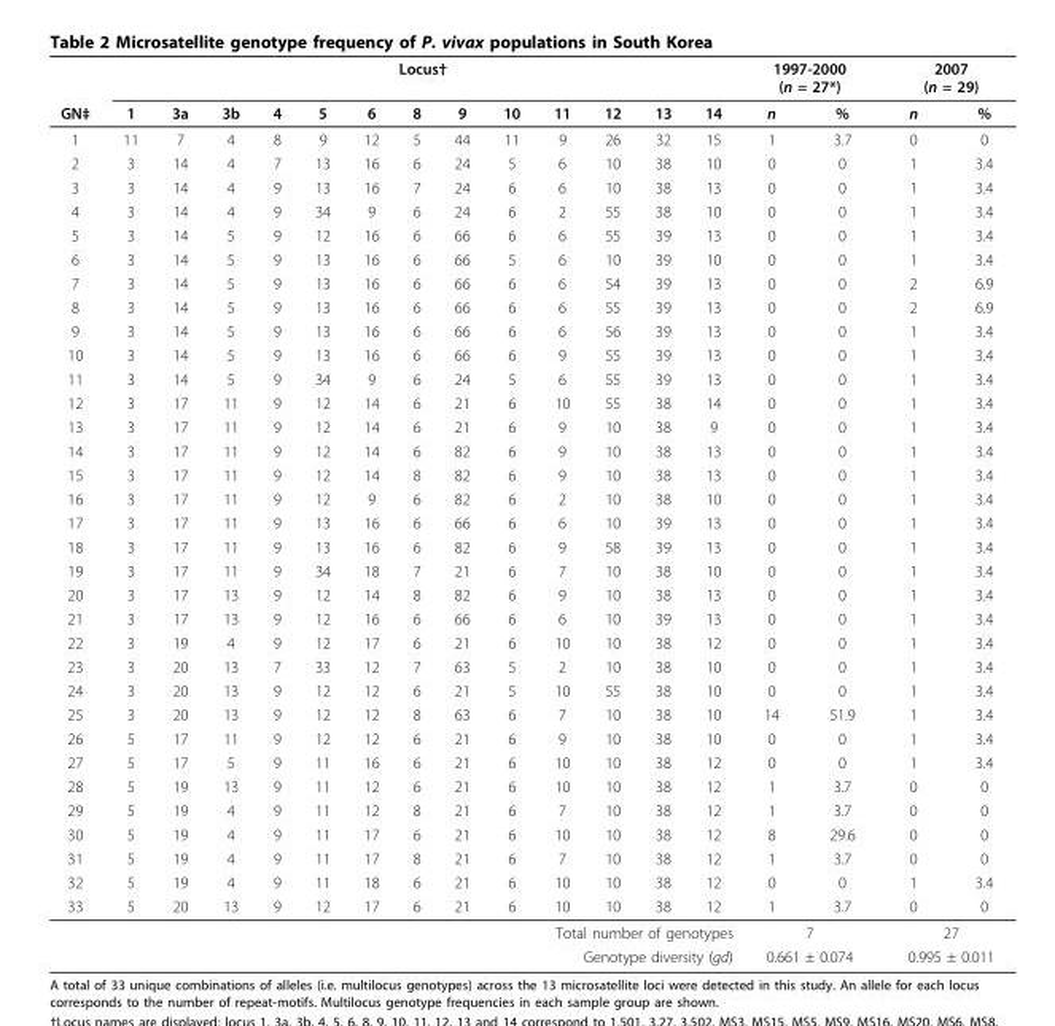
<table><thead><tr><td rowspan="2">GN‡</td><td colspan="13">Locus†</td><td colspan="2">1997-2000 (n = 27*)</td><td colspan="2">2007 (n = 29)</td></tr><tr><td>1</td><td>3a</td><td>3b</td><td>4</td><td>5</td><td>6</td><td>8</td><td>9</td><td>10</td><td>11</td><td>12</td><td>13</td><td>14</td><td>n</td><td>%</td><td>n</td><td>%</td></tr></thead><tbody><tr><td>1</td><td>11</td><td>7</td><td>4</td><td>8</td><td>9</td><td>12</td><td>5</td><td>44</td><td>11</td><td>9</td><td>26</td><td>32</td><td>15</td><td>1</td><td>3.7</td><td>0</td><td>0</td></tr><tr><td>2</td><td>3</td><td>14</td><td>4</td><td>7</td><td>13</td><td>16</td><td>6</td><td>24</td><td>5</td><td>6</td><td>10</td><td>38</td><td>10</td><td>0</td><td>0</td><td>1</td><td>3.4</td></tr><tr><td>3</td><td>3</td><td>14</td><td>4</td><td>9</td><td>13</td><td>16</td><td>7</td><td>24</td><td>6</td><td>6</td><td>10</td><td>38</td><td>13</td><td>0</td><td>0</td><td>1</td><td>3.4</td></tr><tr><td>4</td><td>3</td><td>14</td><td>4</td><td>9</td><td>34</td><td>9</td><td>6</td><td>24</td><td>6</td><td>2</td><td>55</td><td>38</td><td>10</td><td>0</td><td>0</td><td>1</td><td>3.4</td></tr><tr><td>5</td><td>3</td><td>14</td><td>5</td><td>9</td><td>12</td><td>16</td><td>6</td><td>66</td><td>6</td><td>6</td><td>55</td><td>39</td><td>13</td><td>0</td><td>0</td><td>1</td><td>3.4</td></tr><tr><td>6</td><td>3</td><td>14</td><td>5</td><td>9</td><td>13</td><td>16</td><td>6</td><td>66</td><td>5</td><td>6</td><td>10</td><td>39</td><td>10</td><td>0</td><td>0</td><td>1</td><td>3.4</td></tr><tr><td>7</td><td>3</td><td>14</td><td>5</td><td>9</td><td>13</td><td>16</td><td>6</td><td>66</td><td>6</td><td>6</td><td>54</td><td>39</td><td>13</td><td>0</td><td>0</td><td>2</td><td>6.9</td></tr><tr><td>8</td><td>3</td><td>14</td><td>5</td><td>9</td><td>13</td><td>16</td><td>6</td><td>66</td><td>6</td><td>6</td><td>55</td><td>39</td><td>13</td><td>0</td><td>0</td><td>2</td><td>6.9</td></tr><tr><td>9</td><td>3</td><td>14</td><td>5</td><td>9</td><td>13</td><td>16</td><td>6</td><td>66</td><td>6</td><td>6</td><td>56</td><td>39</td><td>13</td><td>0</td><td>0</td><td>1</td><td>3.4</td></tr><tr><td>10</td><td>3</td><td>14</td><td>5</td><td>9</td><td>13</td><td>16</td><td>6</td><td>66</td><td>6</td><td>9</td><td>55</td><td>39</td><td>13</td><td>0</td><td>0</td><td>1</td><td>3.4</td></tr><tr><td>11</td><td>3</td><td>14</td><td>5</td><td>9</td><td>34</td><td>9</td><td>6</td><td>24</td><td>5</td><td>6</td><td>55</td><td>39</td><td>13</td><td>0</td><td>0</td><td>1</td><td>3.4</td></tr><tr><td>12</td><td>3</td><td>17</td><td>11</td><td>9</td><td>12</td><td>14</td><td>6</td><td>21</td><td>6</td><td>10</td><td>55</td><td>38</td><td>14</td><td>0</td><td>0</td><td>1</td><td>3.4</td></tr><tr><td>13</td><td>3</td><td>17</td><td>11</td><td>9</td><td>12</td><td>14</td><td>6</td><td>21</td><td>6</td><td>9</td><td>10</td><td>38</td><td>9</td><td>0</td><td>0</td><td>1</td><td>3.4</td></tr><tr><td>14</td><td>3</td><td>17</td><td>11</td><td>9</td><td>12</td><td>14</td><td>6</td><td>82</td><td>6</td><td>9</td><td>10</td><td>38</td><td>13</td><td>0</td><td>0</td><td>1</td><td>3.4</td></tr><tr><td>15</td><td>3</td><td>17</td><td>11</td><td>9</td><td>12</td><td>14</td><td>8</td><td>82</td><td>6</td><td>9</td><td>10</td><td>38</td><td>13</td><td>0</td><td>0</td><td>1</td><td>3.4</td></tr><tr><td>16</td><td>3</td><td>17</td><td>11</td><td>9</td><td>12</td><td>9</td><td>6</td><td>82</td><td>6</td><td>2</td><td>10</td><td>38</td><td>10</td><td>0</td><td>0</td><td>1</td><td>3.4</td></tr><tr><td>17</td><td>3</td><td>17</td><td>11</td><td>9</td><td>13</td><td>16</td><td>6</td><td>66</td><td>6</td><td>6</td><td>10</td><td>39</td><td>13</td><td>0</td><td>0</td><td>1</td><td>3.4</td></tr><tr><td>18</td><td>3</td><td>17</td><td>11</td><td>9</td><td>13</td><td>16</td><td>6</td><td>82</td><td>6</td><td>9</td><td>58</td><td>39</td><td>13</td><td>0</td><td>0</td><td>1</td><td>3.4</td></tr><tr><td>19</td><td>3</td><td>17</td><td>11</td><td>9</td><td>34</td><td>18</td><td>7</td><td>21</td><td>6</td><td>7</td><td>10</td><td>38</td><td>10</td><td>0</td><td>0</td><td>1</td><td>3.4</td></tr><tr><td>20</td><td>3</td><td>17</td><td>13</td><td>9</td><td>12</td><td>14</td><td>8</td><td>82</td><td>6</td><td>9</td><td>10</td><td>38</td><td>13</td><td>0</td><td>0</td><td>1</td><td>3.4</td></tr><tr><td>21</td><td>3</td><td>17</td><td>13</td><td>9</td><td>12</td><td>16</td><td>6</td><td>66</td><td>6</td><td>6</td><td>10</td><td>39</td><td>13</td><td>0</td><td>0</td><td>1</td><td>3.4</td></tr><tr><td>22</td><td>3</td><td>19</td><td>4</td><td>9</td><td>12</td><td>17</td><td>6</td><td>21</td><td>6</td><td>10</td><td>10</td><td>38</td><td>12</td><td>0</td><td>0</td><td>1</td><td>3.4</td></tr><tr><td>23</td><td>3</td><td>20</td><td>13</td><td>7</td><td>33</td><td>12</td><td>7</td><td>63</td><td>5</td><td>2</td><td>10</td><td>38</td><td>10</td><td>0</td><td>0</td><td>1</td><td>3.4</td></tr><tr><td>24</td><td>3</td><td>20</td><td>13</td><td>9</td><td>12</td><td>12</td><td>6</td><td>21</td><td>5</td><td>10</td><td>55</td><td>38</td><td>10</td><td>0</td><td>0</td><td>1</td><td>3.4</td></tr><tr><td>25</td><td>3</td><td>20</td><td>13</td><td>9</td><td>12</td><td>12</td><td>8</td><td>63</td><td>6</td><td>7</td><td>10</td><td>38</td><td>10</td><td>14</td><td>51.9</td><td>1</td><td>3.4</td></tr><tr><td>26</td><td>5</td><td>17</td><td>11</td><td>9</td><td>12</td><td>12</td><td>6</td><td>21</td><td>6</td><td>9</td><td>10</td><td>38</td><td>10</td><td>0</td><td>0</td><td>1</td><td>3.4</td></tr><tr><td>27</td><td>5</td><td>17</td><td>5</td><td>9</td><td>11</td><td>16</td><td>6</td><td>21</td><td>6</td><td>10</td><td>10</td><td>38</td><td>12</td><td>0</td><td>0</td><td>1</td><td>3.4</td></tr><tr><td>28</td><td>5</td><td>19</td><td>13</td><td>9</td><td>11</td><td>12</td><td>6</td><td>21</td><td>6</td><td>10</td><td>10</td><td>38</td><td>12</td><td>1</td><td>3.7</td><td>0</td><td>0</td></tr><tr><td>29</td><td>5</td><td>19</td><td>4</td><td>9</td><td>11</td><td>12</td><td>8</td><td>21</td><td>6</td><td>7</td><td>10</td><td>38</td><td>12</td><td>1</td><td>3.7</td><td>0</td><td>0</td></tr><tr><td>30</td><td>5</td><td>19</td><td>4</td><td>9</td><td>11</td><td>17</td><td>6</td><td>21</td><td>6</td><td>10</td><td>10</td><td>38</td><td>12</td><td>8</td><td>29.6</td><td>0</td><td>0</td></tr><tr><td>31</td><td>5</td><td>19</td><td>4</td><td>9</td><td>11</td><td>17</td><td>8</td><td>21</td><td>6</td><td>7</td><td>10</td><td>38</td><td>12</td><td>1</td><td>3.7</td><td>0</td><td>0</td></tr><tr><td>32</td><td>5</td><td>19</td><td>4</td><td>9</td><td>11</td><td>18</td><td>6</td><td>21</td><td>6</td><td>10</td><td>10</td><td>38</td><td>12</td><td>0</td><td>0</td><td>1</td><td>3.4</td></tr><tr><td>33</td><td>5</td><td>20</td><td>13</td><td>9</td><td>12</td><td>17</td><td>6</td><td>21</td><td>6</td><td>10</td><td>10</td><td>38</td><td>12</td><td>1</td><td>3.7</td><td>0</td><td>0</td></tr><tr><td colspan="14">Total number of genotypes</td><td colspan="2">7</td><td colspan="2">27</td></tr><tr><td colspan="14">Genotype diversity (gd)</td><td colspan="2">0.661 ± 0.074</td><td colspan="2">0.995 ± 0.011</td></tr></tbody></table>